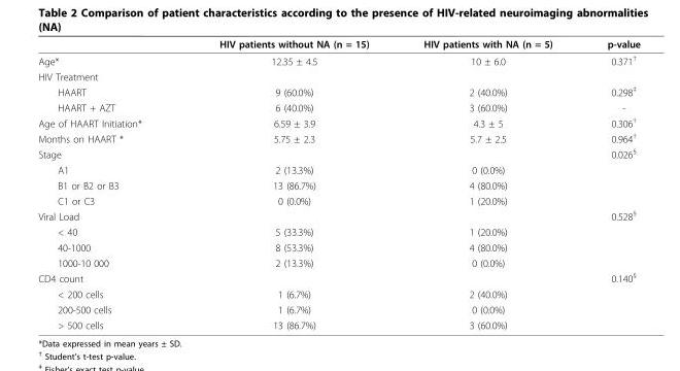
<table><thead><tr><td></td><td>HIV patients without NA (n = 15)</td><td>HIV patients with NA (n = 5)</td><td>p-value</td></tr></thead><tbody><tr><td>Age*</td><td>12.35 ± 4.5</td><td>10 ± 6.0</td><td>0.371<sup>†</sup></td></tr><tr><td colspan="4">HIV Treatment</td></tr><tr><td>HAART</td><td>9 (60.0%)</td><td>2 (40.0%)</td><td>0.298<sup>‡</sup></td></tr><tr><td>HAART + AZT</td><td>6 (40.0%)</td><td>3 (60.0%)</td><td>-</td></tr><tr><td>Age of HAART Initiation*</td><td>6.59 ± 3.9</td><td>4.3 ± 5</td><td>0.306<sup>†</sup></td></tr><tr><td>Months on HAART *</td><td>5.75 ± 2.3</td><td>5.7 ± 2.5</td><td>0.964<sup>†</sup></td></tr><tr><td>Stage</td><td></td><td></td><td>0.026<sup>§</sup></td></tr><tr><td>A1</td><td>2 (13.3%)</td><td>0 (0.0%)</td><td></td></tr><tr><td>B1 or B2 or B3</td><td>13 (86.7%)</td><td>4 (80.0%)</td><td></td></tr><tr><td>C1 or C3</td><td>0 (0.0%)</td><td>1 (20.0%)</td><td></td></tr><tr><td>Viral Load</td><td></td><td></td><td>0.528<sup>§</sup></td></tr><tr><td>&lt; 40</td><td>5 (33.3%)</td><td>1 (20.0%)</td><td></td></tr><tr><td>40-1000</td><td>8 (53.3%)</td><td>4 (80.0%)</td><td></td></tr><tr><td>1000-10 000</td><td>2 (13.3%)</td><td>0 (0.0%)</td><td></td></tr><tr><td>CD4 count</td><td></td><td></td><td>0.140<sup>§</sup></td></tr><tr><td>&lt; 200 cells</td><td>1 (6.7%)</td><td>2 (40.0%)</td><td></td></tr><tr><td>200-500 cells</td><td>1 (6.7%)</td><td>0 (0.0%)</td><td></td></tr><tr><td>&gt; 500 cells</td><td>13 (86.7%)</td><td>3 (60.0%)</td><td></td></tr></tbody></table>